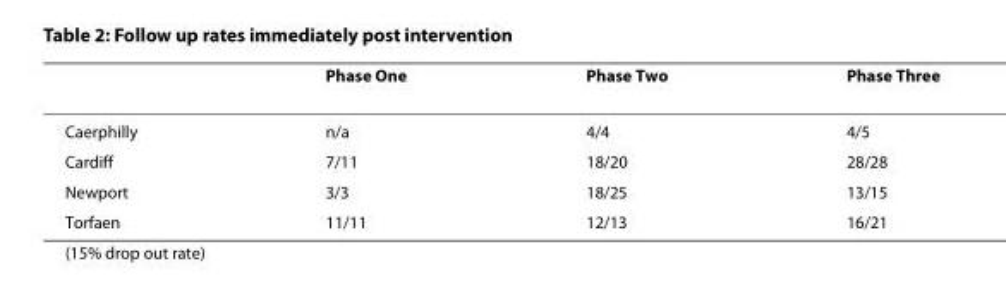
<table><thead><tr><td></td><td>Phase One</td><td>Phase Two</td><td>Phase Three</td></tr></thead><tbody><tr><td>Caerphilly</td><td>n/a</td><td>4/4</td><td>4/5</td></tr><tr><td>Cardiff</td><td>7/11</td><td>18/20</td><td>28/28</td></tr><tr><td>Newport</td><td>3/3</td><td>18/25</td><td>13/15</td></tr><tr><td>Torfaen</td><td>11/11</td><td>12/13</td><td>16/21</td></tr></tbody></table>